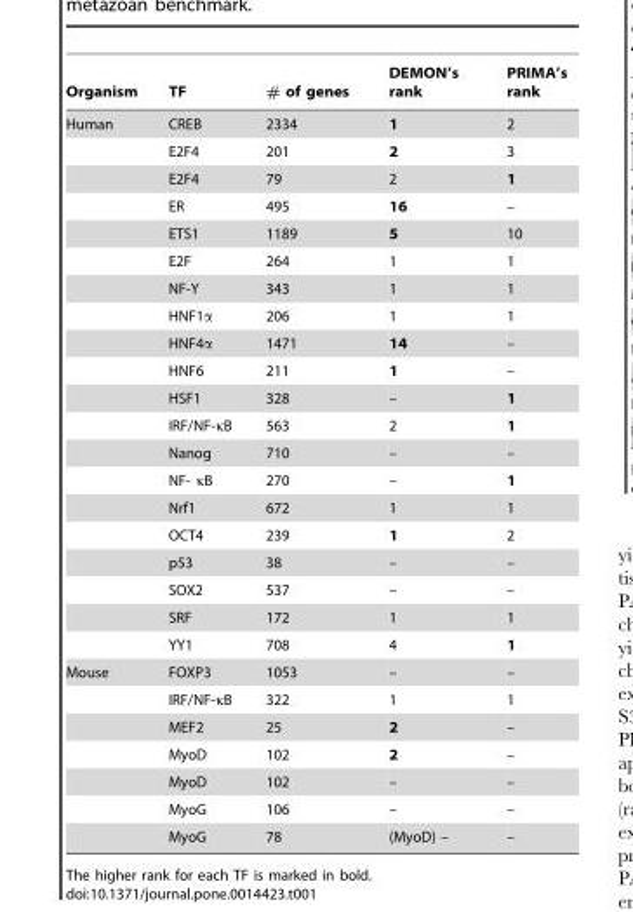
<table><thead><tr><td>Organism</td><td>TF</td><td># of genes</td><td>DEMON’s rank</td><td>PRIMA’s rank</td></tr></thead><tbody><tr><td rowspan="20">Human</td><td>CREB</td><td>2334</td><td>1</td><td>2</td></tr><tr><td>E2F4</td><td>201</td><td>2</td><td>3</td></tr><tr><td>E2F4</td><td>79</td><td>2</td><td>1</td></tr><tr><td>ER</td><td>495</td><td>16</td><td>–</td></tr><tr><td>ETS1</td><td>1189</td><td>5</td><td>10</td></tr><tr><td>E2F</td><td>264</td><td>1</td><td>1</td></tr><tr><td>NF-Y</td><td>343</td><td>1</td><td>1</td></tr><tr><td>HNF1α</td><td>206</td><td>1</td><td>1</td></tr><tr><td>HNF4α</td><td>1471</td><td>14</td><td>–</td></tr><tr><td>HNF6</td><td>211</td><td>1</td><td>–</td></tr><tr><td>HSF1</td><td>328</td><td>–</td><td>1</td></tr><tr><td>IRF/NF-κB</td><td>563</td><td>2</td><td>1</td></tr><tr><td>Nanog</td><td>710</td><td>–</td><td>–</td></tr><tr><td>NF- κB</td><td>270</td><td>–</td><td>1</td></tr><tr><td>Nrf1</td><td>672</td><td>1</td><td>1</td></tr><tr><td>OCT4</td><td>239</td><td>1</td><td>2</td></tr><tr><td>p53</td><td>38</td><td>–</td><td>–</td></tr><tr><td>SOX2</td><td>537</td><td>–</td><td>–</td></tr><tr><td>SRF</td><td>172</td><td>1</td><td>1</td></tr><tr><td>YY1</td><td>708</td><td>4</td><td>1</td></tr><tr><td rowspan="7">Mouse</td><td>FOXP3</td><td>1053</td><td>–</td><td>–</td></tr><tr><td>IRF/NF-κB</td><td>322</td><td>1</td><td>1</td></tr><tr><td>MEF2</td><td>25</td><td>2</td><td>–</td></tr><tr><td>MyoD</td><td>102</td><td>2</td><td>–</td></tr><tr><td>MyoD</td><td>102</td><td>–</td><td>–</td></tr><tr><td>MyoG</td><td>106</td><td>–</td><td>–</td></tr><tr><td>MyoG</td><td>78</td><td>(MyoD) –</td><td>–</td></tr></tbody></table>